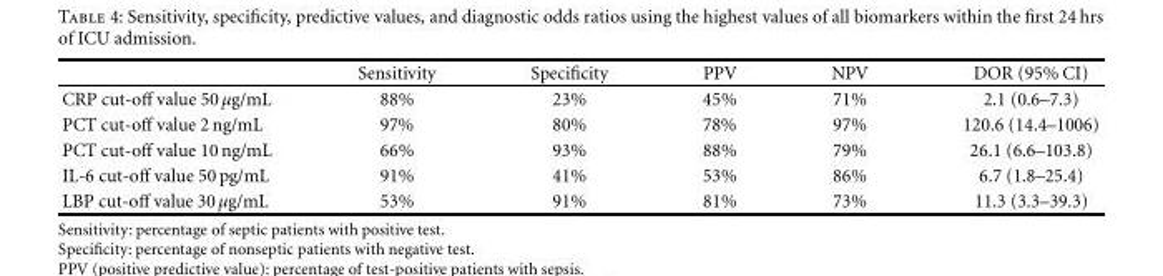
<table><thead><tr><td></td><td>Sensitivity</td><td>Specificity</td><td>PPV</td><td>NPV</td><td>DOR (95% CI)</td></tr></thead><tbody><tr><td>CRP cut-off value 50 μg/mL</td><td>88%</td><td>23%</td><td>45%</td><td>71%</td><td>2.1 (0.6–7.3)</td></tr><tr><td>PCT cut-off value 2 ng/mL</td><td>97%</td><td>80%</td><td>78%</td><td>97%</td><td>120.6 (14.4–1006)</td></tr><tr><td>PCT cut-off value 10 ng/mL</td><td>66%</td><td>93%</td><td>88%</td><td>79%</td><td>26.1 (6.6–103.8)</td></tr><tr><td>IL-6 cut-off value 50 pg/mL</td><td>91%</td><td>41%</td><td>53%</td><td>86%</td><td>6.7 (1.8–25.4)</td></tr><tr><td>LBP cut-off value 30 μg/mL</td><td>53%</td><td>91%</td><td>81%</td><td>73%</td><td>11.3 (3.3–39.3)</td></tr></tbody></table>